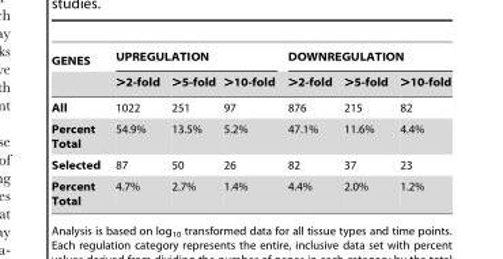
<table><thead><tr><td rowspan="2">GENES</td><td colspan="3">UPREGULATION</td><td colspan="3">DOWNREGULATION</td></tr><tr><td>&gt;2-fold</td><td>&gt;5-fold</td><td>&gt;10-fold</td><td>&gt;2-fold</td><td>&gt;5-fold</td><td>&gt;10-fold</td></tr></thead><tbody><tr><td>All</td><td>1022</td><td>251</td><td>97</td><td>876</td><td>215</td><td>82</td></tr><tr><td>Percent Total</td><td>54.9%</td><td>13.5%</td><td>5.2%</td><td>47.1%</td><td>11.6%</td><td>4.4%</td></tr><tr><td>Selected</td><td>87</td><td>50</td><td>26</td><td>82</td><td>37</td><td>23</td></tr><tr><td>Percent Total</td><td>4.7%</td><td>2.7%</td><td>1.4%</td><td>4.4%</td><td>2.0%</td><td>1.2%</td></tr></tbody></table>